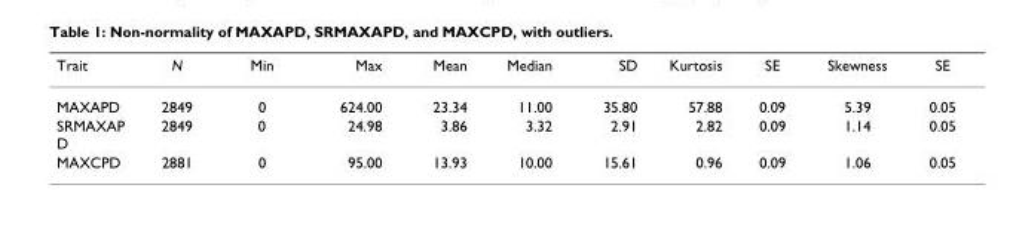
<table><thead><tr><td>Trait</td><td>N</td><td>Min</td><td>Max</td><td>Mean</td><td>Median</td><td>SD</td><td>Kurtosis</td><td>SE</td><td>Skewness</td><td>SE</td></tr></thead><tbody><tr><td>MAXAPD</td><td>2849</td><td>0</td><td>624.00</td><td>23.34</td><td>11.00</td><td>35.80</td><td>57.88</td><td>0.09</td><td>5.39</td><td>0.05</td></tr><tr><td>SRMAXAP D</td><td>2849</td><td>0</td><td>24.98</td><td>3.86</td><td>3.32</td><td>2.91</td><td>2.82</td><td>0.09</td><td>1.14</td><td>0.05</td></tr><tr><td>MAXCPD</td><td>2881</td><td>0</td><td>95.00</td><td>13.93</td><td>10.00</td><td>15.61</td><td>0.96</td><td>0.09</td><td>1.06</td><td>0.05</td></tr></tbody></table>